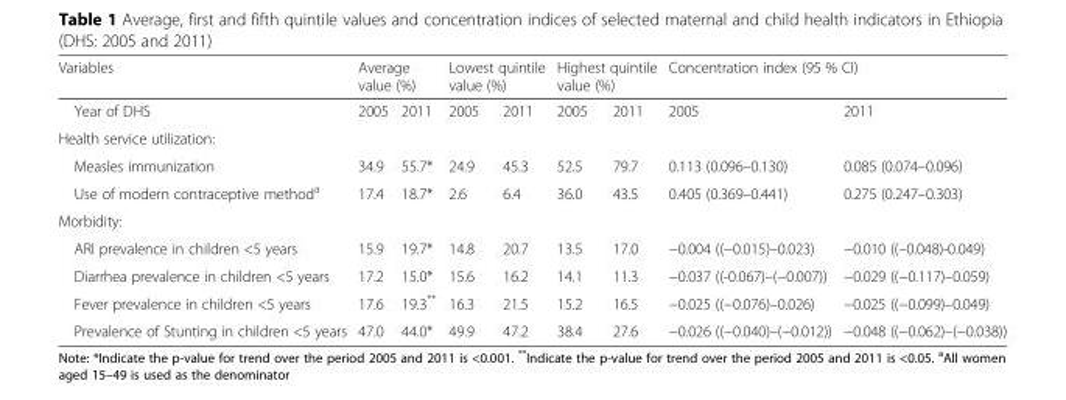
<table><thead><tr><td rowspan="2">Variables Year of DHS</td><td colspan="2">Average value (%)</td><td colspan="2">Lowest quintile value (%)</td><td colspan="2">Highest quintile value (%)</td><td colspan="2">Concentration index (95 % CI)</td></tr><tr><td>2005</td><td>2011</td><td>2005</td><td>2011</td><td>2005</td><td>2011</td><td>2005</td><td>2011</td></tr></thead><tbody><tr><td colspan="9">Health service utilization:</td></tr><tr><td>Measles immunization</td><td>34.9</td><td>55.7*</td><td>24.9</td><td>45.3</td><td>52.5</td><td>79.7</td><td>0.113 (0.096–0.130)</td><td>0.085 (0.074–0.096)</td></tr><tr><td>Use of modern contraceptive method<sup>a</sup></td><td>17.4</td><td>18.7*</td><td>2.6</td><td>6.4</td><td>36.0</td><td>43.5</td><td>0.405 (0.369–0.441)</td><td>0.275 (0.247–0.303)</td></tr><tr><td colspan="9">Morbidity:</td></tr><tr><td>ARI prevalence in children &lt;5 years</td><td>15.9</td><td>19.7*</td><td>14.8</td><td>20.7</td><td>13.5</td><td>17.0</td><td>−0.004 ((−0.015)–0.023)</td><td>−0.010 ((–0.048)-0.049)</td></tr><tr><td>Diarrhea prevalence in children &lt;5 years</td><td>17.2</td><td>15.0*</td><td>15.6</td><td>16.2</td><td>14.1</td><td>11.3</td><td>−0.037 ((-0.067)–(−0.007))</td><td>−0.029 ((−0.117)–0.059)</td></tr><tr><td>Fever prevalence in children &lt;5 years</td><td>17.6</td><td>19.3**</td><td>16.3</td><td>21.5</td><td>15.2</td><td>16.5</td><td>−0.025 ((−0.076)–0.026)</td><td>−0.025 ((−0.099)–0.049)</td></tr><tr><td>Prevalence of Stunting in children &lt;5 years</td><td>47.0</td><td>44.0*</td><td>49.9</td><td>47.2</td><td>38.4</td><td>27.6</td><td>−0.026 ((−0.040)–(−0.012))</td><td>−0.048 ((−0.062)–(−0.038))</td></tr></tbody></table>